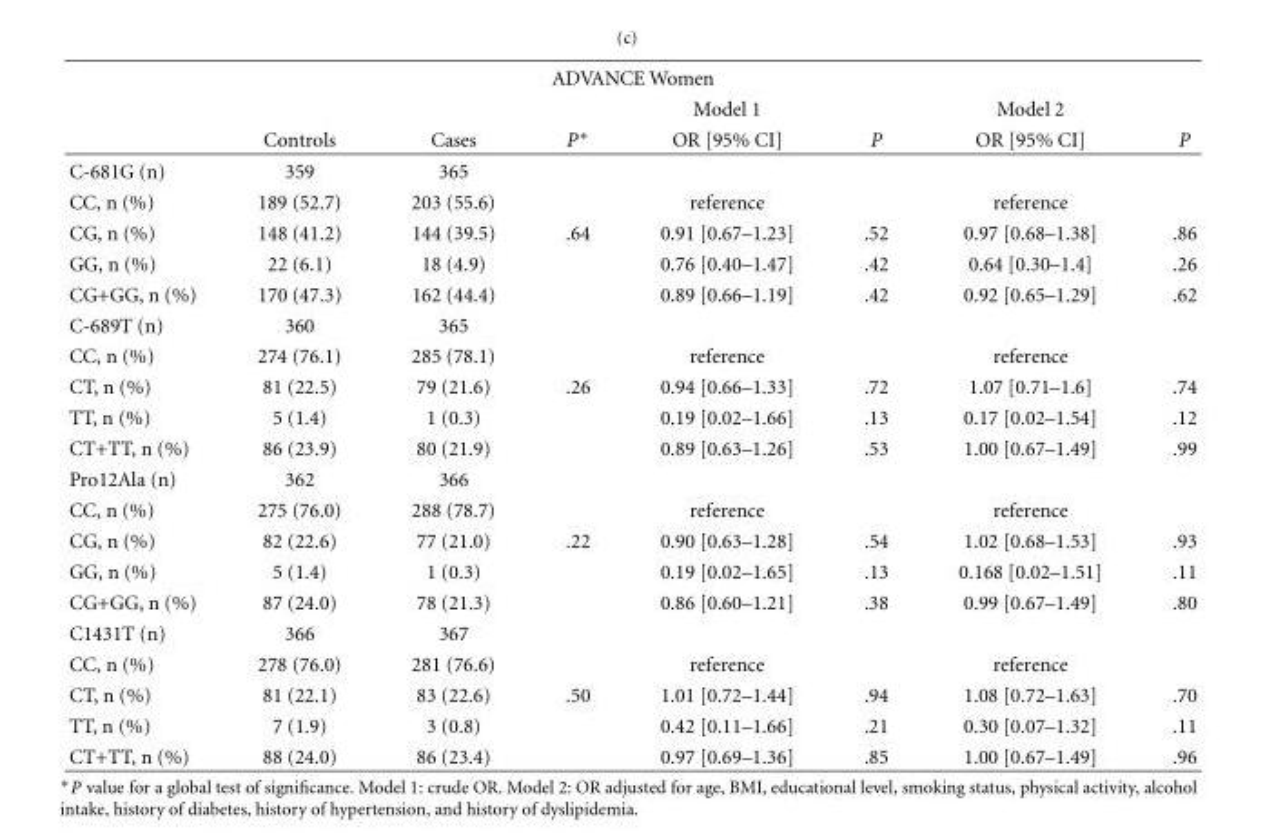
<table><thead><tr><td colspan="8">ADVANCE Women</td></tr><tr><td rowspan="2"></td><td rowspan="2">Controls</td><td rowspan="2">Cases</td><td rowspan="2">P∗</td><td rowspan="2">Model 1 OR [95% CI]</td><td rowspan="2">P</td><td rowspan="2">Model 2 OR [95% CI]</td><td rowspan="2">P</td></tr><tr></tr></thead><tbody><tr><td>C-681G (n)</td><td>359</td><td>365</td><td></td><td></td><td></td><td></td><td></td></tr><tr><td>CC, n (%)</td><td>189 (52.7)</td><td>203 (55.6)</td><td></td><td>reference</td><td></td><td>reference</td><td></td></tr><tr><td>CG, n (%)</td><td>148 (41.2)</td><td>144 (39.5)</td><td>.64</td><td>0.91 [0.67–1.23]</td><td>.52</td><td>0.97 [0.68–1.38]</td><td>.86</td></tr><tr><td>GG, n (%)</td><td>22 (6.1)</td><td>18 (4.9)</td><td></td><td>0.76 [0.40–1.47]</td><td>.42</td><td>0.64 [0.30–1.4]</td><td>.26</td></tr><tr><td>CG+GG, n (%)</td><td>170 (47.3)</td><td>162 (44.4)</td><td></td><td>0.89 [0.66–1.19]</td><td>.42</td><td>0.92 [0.65–1.29]</td><td>.62</td></tr><tr><td>C-689T (n)</td><td>360</td><td>365</td><td></td><td></td><td></td><td></td><td></td></tr><tr><td>CC, n (%)</td><td>274 (76.1)</td><td>285 (78.1)</td><td></td><td>reference</td><td></td><td>reference</td><td></td></tr><tr><td>CT, n (%)</td><td>81 (22.5)</td><td>79 (21.6)</td><td>.26</td><td>0.94 [0.66–1.33]</td><td>.72</td><td>1.07 [0.71–1.6]</td><td>.74</td></tr><tr><td>TT, n (%)</td><td>5 (1.4)</td><td>1 (0.3)</td><td></td><td>0.19 [0.02–1.66]</td><td>.13</td><td>0.17 [0.02–1.54]</td><td>.12</td></tr><tr><td>CT+TT, n (%)</td><td>86 (23.9)</td><td>80 (21.9)</td><td></td><td>0.89 [0.63–1.26]</td><td>.53</td><td>1.00 [0.67–1.49]</td><td>.99</td></tr><tr><td>Pro12Ala (n)</td><td>362</td><td>366</td><td></td><td></td><td></td><td></td><td></td></tr><tr><td>CC, n (%)</td><td>275 (76.0)</td><td>288 (78.7)</td><td></td><td>reference</td><td></td><td>reference</td><td></td></tr><tr><td>CG, n (%)</td><td>82 (22.6)</td><td>77 (21.0)</td><td>.22</td><td>0.90 [0.63–1.28]</td><td>.54</td><td>1.02 [0.68–1.53]</td><td>.93</td></tr><tr><td>GG, n (%)</td><td>5 (1.4)</td><td>1 (0.3)</td><td></td><td>0.19 [0.02–1.65]</td><td>.13</td><td>0.168 [0.02–1.51]</td><td>.11</td></tr><tr><td>CG+GG, n (%)</td><td>87 (24.0)</td><td>78 (21.3)</td><td></td><td>0.86 [0.60–1.21]</td><td>.38</td><td>0.99 [0.67–1.49]</td><td>.80</td></tr><tr><td>C1431T (n)</td><td>366</td><td>367</td><td></td><td></td><td></td><td></td><td></td></tr><tr><td>CC, n (%)</td><td>278 (76.0)</td><td>281 (76.6)</td><td></td><td>reference</td><td></td><td>reference</td><td></td></tr><tr><td>CT, n (%)</td><td>81 (22.1)</td><td>83 (22.6)</td><td>.50</td><td>1.01 [0.72–1.44]</td><td>.94</td><td>1.08 [0.72–1.63]</td><td>.70</td></tr><tr><td>TT, n (%)</td><td>7 (1.9)</td><td>3 (0.8)</td><td></td><td>0.42 [0.11–1.66]</td><td>.21</td><td>0.30 [0.07–1.32]</td><td>.11</td></tr><tr><td>CT+TT, n (%)</td><td>88 (24.0)</td><td>86 (23.4)</td><td></td><td>0.97 [0.69–1.36]</td><td>.85</td><td>1.00 [0.67–1.49]</td><td>.96</td></tr></tbody></table>